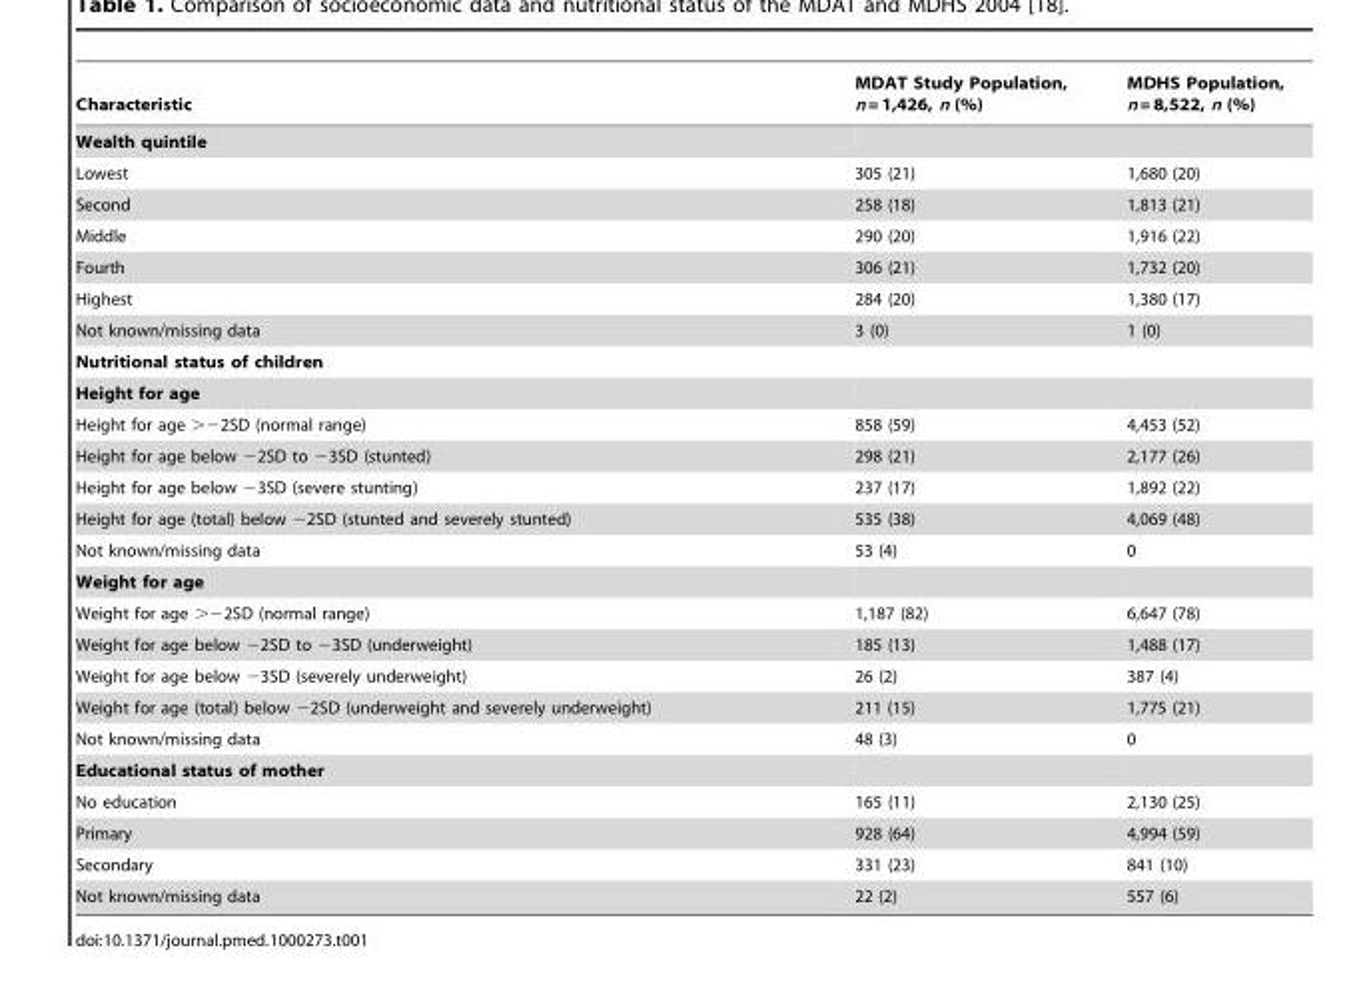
<table><thead><tr><td>Characteristic</td><td>MDAT Study Population, n = 1,426, n (%)</td><td>MDHS Population, n = 8,522, n (%)</td></tr></thead><tbody><tr><td colspan="3">Wealth quintile</td></tr><tr><td>Lowest</td><td>305 (21)</td><td>1,680 (20)</td></tr><tr><td>Second</td><td>258 (18)</td><td>1,813 (21)</td></tr><tr><td>Middle</td><td>290 (20)</td><td>1,916 (22)</td></tr><tr><td>Fourth</td><td>306 (21)</td><td>1,732 (20)</td></tr><tr><td>Highest</td><td>284 (20)</td><td>1,380 (17)</td></tr><tr><td>Not known/missing data</td><td>3 (0)</td><td>1 (0)</td></tr><tr><td colspan="3">Nutritional status of children</td></tr><tr><td colspan="3">Height for age</td></tr><tr><td>Height for age &gt;−2SD (normal range)</td><td>858 (59)</td><td>4,453 (52)</td></tr><tr><td>Height for age below −2SD to −3SD (stunted)</td><td>298 (21)</td><td>2,177 (26)</td></tr><tr><td>Height for age below −3SD (severe stunting)</td><td>237 (17)</td><td>1,892 (22)</td></tr><tr><td>Height for age (total) below −2SD (stunted and severely stunted)</td><td>535 (38)</td><td>4,069 (48)</td></tr><tr><td>Not known/missing data</td><td>53 (4)</td><td>0</td></tr><tr><td colspan="3">Weight for age</td></tr><tr><td>Weight for age &gt;−2SD (normal range)</td><td>1,187 (82)</td><td>6,647 (78)</td></tr><tr><td>Weight for age below −2SD to −3SD (underweight)</td><td>185 (13)</td><td>1,488 (17)</td></tr><tr><td>Weight for age below −3SD (severely underweight)</td><td>26 (2)</td><td>387 (4)</td></tr><tr><td>Weight for age (total) below −2SD (underweight and severely underweight)</td><td>211 (15)</td><td>1,775 (21)</td></tr><tr><td>Not known/missing data</td><td>48 (3)</td><td>0</td></tr><tr><td colspan="3">Educational status of mother</td></tr><tr><td>No education</td><td>165 (11)</td><td>2,130 (25)</td></tr><tr><td>Primary</td><td>928 (64)</td><td>4,994 (59)</td></tr><tr><td>Secondary</td><td>331 (23)</td><td>841 (10)</td></tr><tr><td>Not known/missing data</td><td>22 (2)</td><td>557 (6)</td></tr></tbody></table>